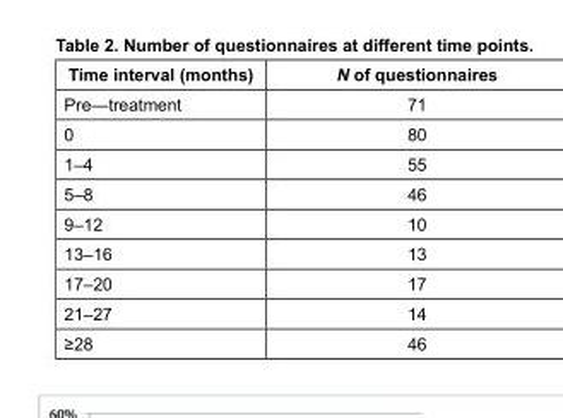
<table><thead><tr><td>Time interval (months)</td><td>N of questionnaires</td></tr></thead><tbody><tr><td>Pre—treatment</td><td>71</td></tr><tr><td>0</td><td>80</td></tr><tr><td>1–4</td><td>55</td></tr><tr><td>5–8</td><td>46</td></tr><tr><td>9–12</td><td>10</td></tr><tr><td>13–16</td><td>13</td></tr><tr><td>17–20</td><td>17</td></tr><tr><td>21–27</td><td>14</td></tr><tr><td>≥28</td><td>46</td></tr></tbody></table>